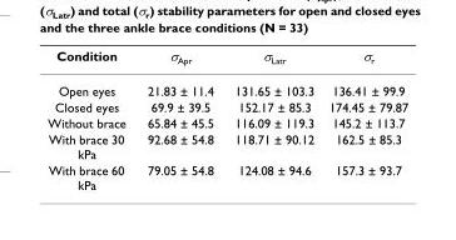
<table><thead><tr><td>Condition</td><td>σ<sub>Apr</sub></td><td>σ<sub>Latr</sub></td><td>σ<sub>r</sub></td></tr></thead><tbody><tr><td>Open eyes</td><td>21.83 ± 11.4</td><td>131.65 ± 103.3</td><td>136.41 ± 99.9</td></tr><tr><td>Closed eyes</td><td>69.9 ± 39.5</td><td>152.17 ± 85.3</td><td>174.45 ± 79.87</td></tr><tr><td>Without brace</td><td>65.84 ± 45.5</td><td>116.09 ± 119.3</td><td>145.2 ± 113.7</td></tr><tr><td>With brace 30 kPa</td><td>92.68 ± 54.8</td><td>118.71 ± 90.12</td><td>162.5 ± 85.3</td></tr><tr><td>With brace 60 kPa</td><td>79.05 ± 54.8</td><td>124.08 ± 94.6</td><td>157.3 ± 93.7</td></tr></tbody></table>